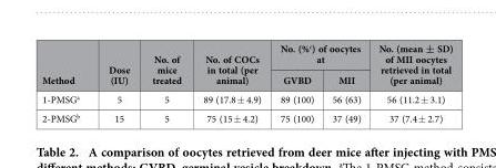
<table><thead><tr><td rowspan="2">Method</td><td rowspan="2">Dose (IU)</td><td rowspan="2">No. of mice treated</td><td rowspan="2">No. of COCs in total (per animal)</td><td colspan="2">No. (%<sup>c</sup>) of oocytes at</td><td rowspan="2">No. (mean ± SD) of MII oocytes retrieved in total (per animal)</td></tr><tr><td>GVBD</td><td>MII</td></tr></thead><tbody><tr><td>1-PMSG<sup>a</sup></td><td>5</td><td>5</td><td>89 (17.8 ± 4.9)</td><td>89 (100)</td><td>56 (63)</td><td>56 (11.2 ± 3.1)</td></tr><tr><td>2-PMSG<sup>b</sup></td><td>15</td><td>5</td><td>75 (15 ± 4.2)</td><td>75 (100)</td><td>37 (49)</td><td>37 (7.4 ± 2.7)</td></tr></tbody></table>